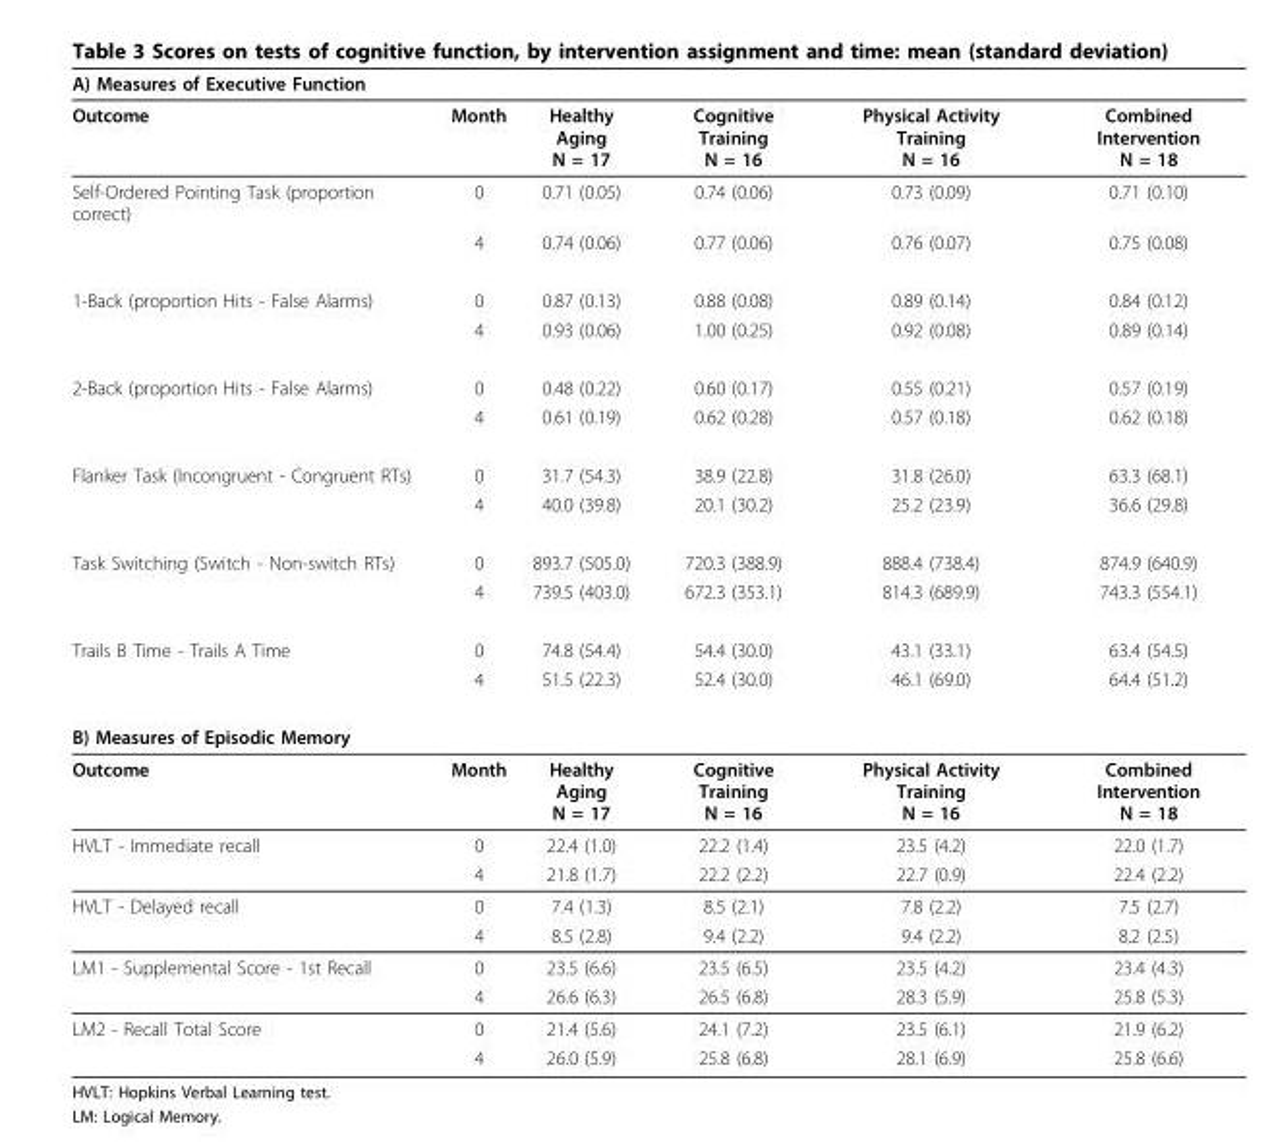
<table><thead><tr><td colspan="6">A) Measures of Executive Function</td></tr><tr><td>Outcome</td><td>Month</td><td>Healthy Aging N = 17</td><td>Cognitive Training N = 16</td><td>Physical Activity Training N = 16</td><td>Combined Intervention N = 18</td></tr></thead><tbody><tr><td rowspan="2">Self-Ordered Pointing Task (proportion correct)</td><td>0</td><td>0.71 (0.05)</td><td>0.74 (0.06)</td><td>0.73 (0.09)</td><td>0.71 (0.10)</td></tr><tr><td>4</td><td>0.74 (0.06)</td><td>0.77 (0.06)</td><td>0.76 (0.07)</td><td>0.75 (0.08)</td></tr><tr><td rowspan="2">1-Back (proportion Hits - False Alarms)</td><td>0</td><td>0.87 (0.13)</td><td>0.88 (0.08)</td><td>0.89 (0.14)</td><td>0.84 (0.12)</td></tr><tr><td>4</td><td>0.93 (0.06)</td><td>1.00 (0.25)</td><td>0.92 (0.08)</td><td>0.89 (0.14)</td></tr><tr><td rowspan="2">2-Back (proportion Hits - False Alarms)</td><td>0</td><td>0.48 (0.22)</td><td>0.60 (0.17)</td><td>0.55 (0.21)</td><td>0.57 (0.19)</td></tr><tr><td>4</td><td>0.61 (0.19)</td><td>0.62 (0.28)</td><td>0.57 (0.18)</td><td>0.62 (0.18)</td></tr><tr><td rowspan="2">Flanker Task (Incongruent - Congruent RTs)</td><td>0</td><td>31.7 (54.3)</td><td>38.9 (22.8)</td><td>31.8 (26.0)</td><td>63.3 (68.1)</td></tr><tr><td>4</td><td>40.0 (39.8)</td><td>20.1 (30.2)</td><td>25.2 (23.9)</td><td>36.6 (29.8)</td></tr><tr><td rowspan="2">Task Switching (Switch - Non-switch RTs)</td><td>0</td><td>893.7 (505.0)</td><td>720.3 (388.9)</td><td>888.4 (738.4)</td><td>874.9 (640.9)</td></tr><tr><td>4</td><td>739.5 (403.0)</td><td>672.3 (353.1)</td><td>814.3 (689.9)</td><td>743.3 (554.1)</td></tr><tr><td rowspan="2">Trails B Time - Trails A Time</td><td>0</td><td>74.8 (54.4)</td><td>54.4 (30.0)</td><td>43.1 (33.1)</td><td>63.4 (54.5)</td></tr><tr><td>4</td><td>51.5 (22.3)</td><td>52.4 (30.0)</td><td>46.1 (69.0)</td><td>64.4 (51.2)</td></tr><tr><td colspan="6">B) Measures of Episodic Memory</td></tr><tr><td>Outcome</td><td>Month</td><td>Healthy Aging N = 17</td><td>Cognitive Training N = 16</td><td>Physical Activity Training N = 16</td><td>Combined Intervention N = 18</td></tr><tr><td rowspan="2">HVLT - Immediate recall</td><td>0</td><td>22.4 (1.0)</td><td>22.2 (1.4)</td><td>23.5 (4.2)</td><td>22.0 (1.7)</td></tr><tr><td>4</td><td>21.8 (1.7)</td><td>22.2 (2.2)</td><td>22.7 (0.9)</td><td>22.4 (2.2)</td></tr><tr><td rowspan="2">HVLT - Delayed recall</td><td>0</td><td>7.4 (1.3)</td><td>8.5 (2.1)</td><td>7.8 (2.2)</td><td>7.5 (2.7)</td></tr><tr><td>4</td><td>8.5 (2.8)</td><td>9.4 (2.2)</td><td>9.4 (2.2)</td><td>8.2 (2.5)</td></tr><tr><td rowspan="2">LM1 - Supplemental Score - 1st Recall</td><td>0</td><td>23.5 (6.6)</td><td>23.5 (6.5)</td><td>23.5 (4.2)</td><td>23.4 (4.3)</td></tr><tr><td>4</td><td>26.6 (6.3)</td><td>26.5 (6.8)</td><td>28.3 (5.9)</td><td>25.8 (5.3)</td></tr><tr><td rowspan="2">LM2 - Recall Total Score</td><td>0</td><td>21.4 (5.6)</td><td>24.1 (7.2)</td><td>23.5 (6.1)</td><td>21.9 (6.2)</td></tr><tr><td>4</td><td>26.0 (5.9)</td><td>25.8 (6.8)</td><td>28.1 (6.9)</td><td>25.8 (6.6)</td></tr></tbody></table>